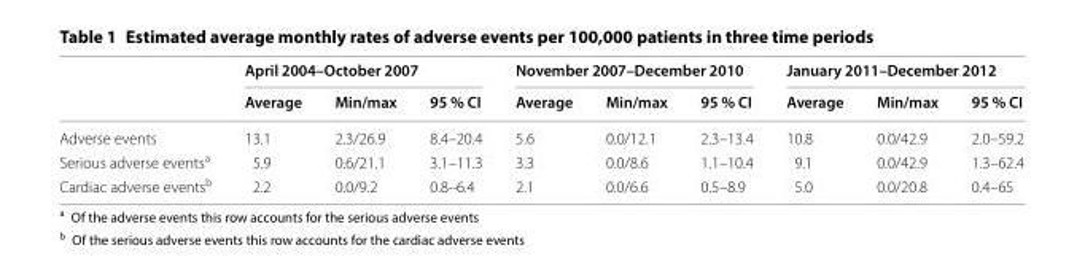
<table><thead><tr><td rowspan="2"></td><td colspan="3">April 2004–October 2007</td><td colspan="3">November 2007–December 2010</td><td colspan="3">January 2011–December 2012</td></tr><tr><td>Average</td><td>Min/max</td><td>95 % CI</td><td>Average</td><td>Min/max</td><td>95 % CI</td><td>Average</td><td>Min/max</td><td>95 % CI</td></tr></thead><tbody><tr><td>Adverse events</td><td>13.1</td><td>2.3/26.9</td><td>8.4–20.4</td><td>5.6</td><td>0.0/12.1</td><td>2.3–13.4</td><td>10.8</td><td>0.0/42.9</td><td>2.0–59.2</td></tr><tr><td>Serious adverse events<sup>a</sup></td><td>5.9</td><td>0.6/21.1</td><td>3.1–11.3</td><td>3.3</td><td>0.0/8.6</td><td>1.1–10.4</td><td>9.1</td><td>0.0/42.9</td><td>1.3–62.4</td></tr><tr><td>Cardiac adverse events<sup>b</sup></td><td>2.2</td><td>0.0/9.2</td><td>0.8–6.4</td><td>2.1</td><td>0.0/6.6</td><td>0.5–8.9</td><td>5.0</td><td>0.0/20.8</td><td>0.4–65</td></tr></tbody></table>